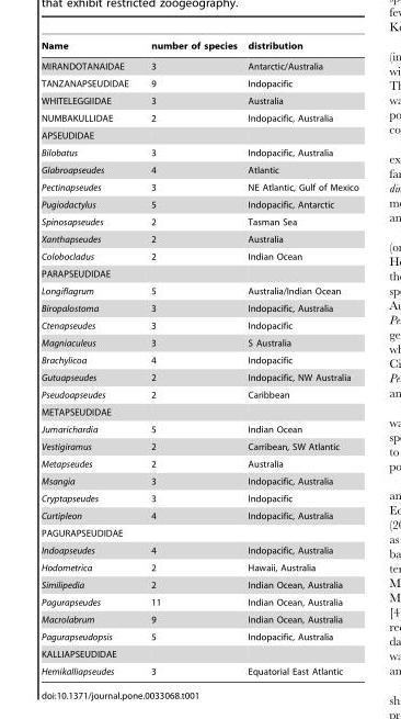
<table><thead><tr><td>Name</td><td>number of species</td><td>distribution</td></tr></thead><tbody><tr><td>MIRANDOTANAIDAE</td><td>3</td><td>Antarctic/Australia</td></tr><tr><td>TANZANAPSEUDIDAE</td><td>9</td><td>Indopacific</td></tr><tr><td>WHITELEGGIIDAE</td><td>3</td><td>Australia</td></tr><tr><td>NUMBAKULLIDAE</td><td>2</td><td>Indopacific, Australia</td></tr><tr><td colspan="3">APSEUDIDAE</td></tr><tr><td>Bilobatus</td><td>3</td><td>Indopacific, Australia</td></tr><tr><td>Glabroapseudes</td><td>4</td><td>Atlantic</td></tr><tr><td>Pectinapseudes</td><td>3</td><td>NE Atlantic, Gulf of Mexico</td></tr><tr><td>Pugiodactylus</td><td>5</td><td>Indopacific, Antarctic</td></tr><tr><td>Spinosapseudes</td><td>2</td><td>Tasman Sea</td></tr><tr><td>Xanthapseudes</td><td>2</td><td>Australia</td></tr><tr><td>Colobocladus</td><td>2</td><td>Indian Ocean</td></tr><tr><td colspan="3">PARAPSEUDIDAE</td></tr><tr><td>Longiflagrum</td><td>5</td><td>Australia/Indian Ocean</td></tr><tr><td>Biropalostoma</td><td>3</td><td>Indopacific, Australia</td></tr><tr><td>Ctenapseudes</td><td>3</td><td>Indopacific</td></tr><tr><td>Magniaculeus</td><td>3</td><td>S Australia</td></tr><tr><td>Brachylicoa</td><td>4</td><td>Indopacific</td></tr><tr><td>Gutuapseudes</td><td>2</td><td>Indopacific, NW Australia</td></tr><tr><td>Pseudoapseudes</td><td>2</td><td>Caribbean</td></tr><tr><td colspan="3">METAPSEUDIDAE</td></tr><tr><td>Jumarichardia</td><td>5</td><td>Indian Ocean</td></tr><tr><td>Vestigiramus</td><td>2</td><td>Carribean, SW Atlantic</td></tr><tr><td>Metapseudes</td><td>2</td><td>Australia</td></tr><tr><td>Msangia</td><td>3</td><td>Indopacific, Australia</td></tr><tr><td>Cryptapseudes</td><td>3</td><td>Indopacific</td></tr><tr><td>Curtipleon</td><td>4</td><td>Indopacific, Australia</td></tr><tr><td colspan="3">PAGURAPSEUDIDAE</td></tr><tr><td>Indoapseudes</td><td>4</td><td>Indopacific, Australia</td></tr><tr><td>Hodometrica</td><td>2</td><td>Hawaii, Australia</td></tr><tr><td>Similipedia</td><td>2</td><td>Indian Ocean, Australia</td></tr><tr><td>Pagurapseudes</td><td>11</td><td>Indian Ocean, Australia</td></tr><tr><td>Macrolabrum</td><td>9</td><td>Indian Ocean, Australia</td></tr><tr><td>Pagurapseudopsis</td><td>5</td><td>Indopacific, Australia</td></tr><tr><td colspan="3">KALLIAPSEUDIDAE</td></tr><tr><td>Hemikalliapseudes</td><td>3</td><td>Equatorial East Atlantic</td></tr></tbody></table>